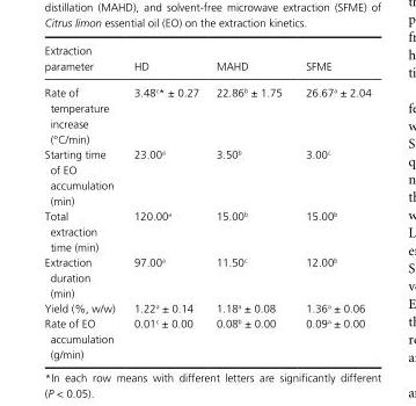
<table><thead><tr><td>Extraction parameter</td><td>HD</td><td>MAHD</td><td>SFME</td></tr></thead><tbody><tr><td>Rate of temperature increase (°C/min)</td><td>3.48<sup>c</sup>* ± 0.27</td><td>22.86<sup>b</sup> ± 1.75</td><td>26.67<sup>a</sup> ± 2.04</td></tr><tr><td>Starting time of EO accumulation (min)</td><td>23.00<sup>a</sup></td><td>3.50<sup>b</sup></td><td>3.00<sup>c</sup></td></tr><tr><td>Total extraction time (min)</td><td>120.00<sup>a</sup></td><td>15.00<sup>b</sup></td><td>15.00<sup>b</sup></td></tr><tr><td>Extraction duration (min)</td><td>97.00<sup>a</sup></td><td>11.50<sup>c</sup></td><td>12.00<sup>b</sup></td></tr><tr><td>Yield (%, w/w)</td><td>1.22<sup>a</sup> ± 0.14</td><td>1.18<sup>a</sup> ± 0.08</td><td>1.36<sup>a</sup> ± 0.06</td></tr><tr><td>Rate of EO accumulation (g/min)</td><td>0.01<sup>c</sup> ± 0.00</td><td>0.08<sup>b</sup> ± 0.00</td><td>0.09<sup>a</sup> ± 0.00</td></tr></tbody></table>